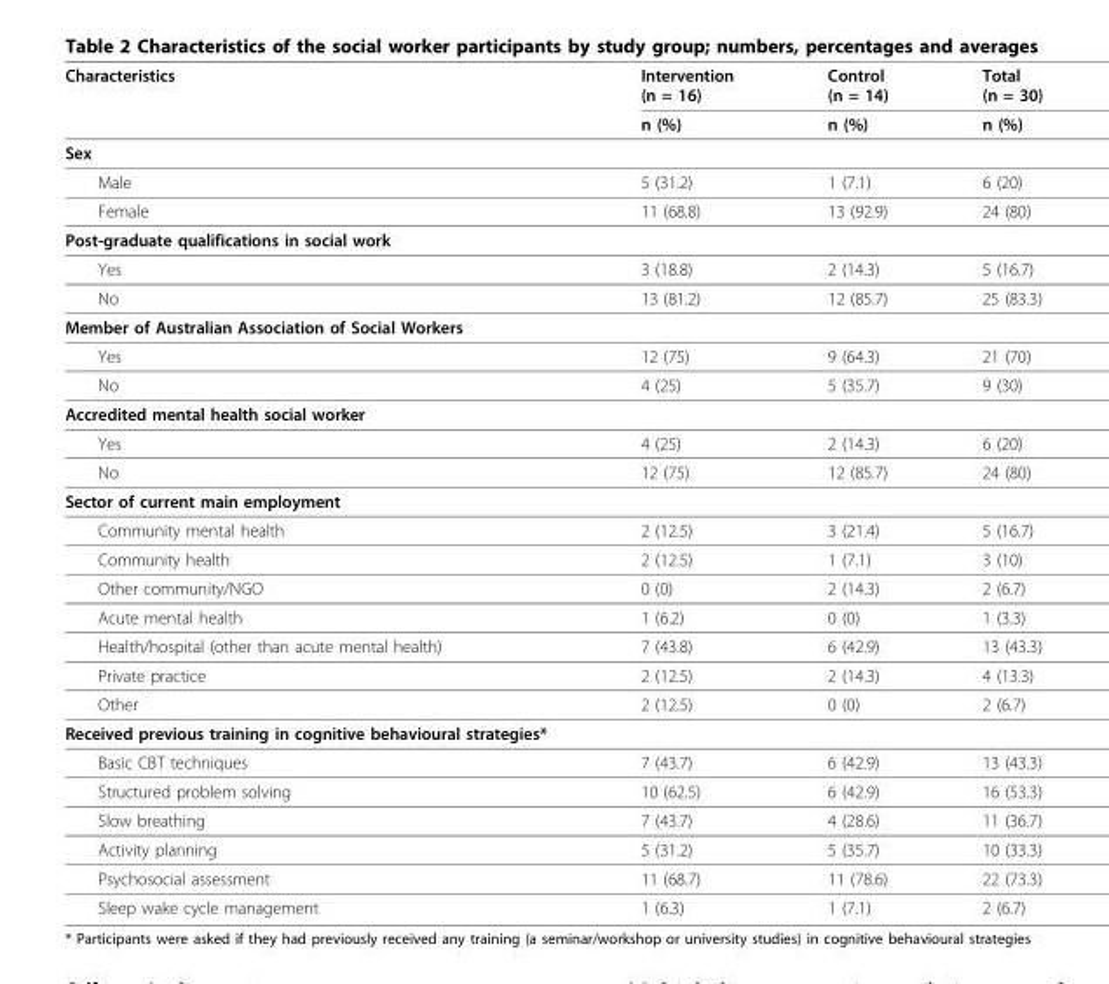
<table><thead><tr><td rowspan="2">Characteristics</td><td rowspan="2">Intervention (n = 16) n (%)</td><td rowspan="2">Control (n = 14) n (%)</td><td rowspan="2">Total (n = 30) n (%)</td></tr><tr></tr></thead><tbody><tr><td colspan="4">Sex</td></tr><tr><td>Male</td><td>5 (31.2)</td><td>1 (7.1)</td><td>6 (20)</td></tr><tr><td>Female</td><td>11 (68.8)</td><td>13 (92.9)</td><td>24 (80)</td></tr><tr><td colspan="4">Post-graduate qualifications in social work</td></tr><tr><td>Yes</td><td>3 (18.8)</td><td>2 (14.3)</td><td>5 (16.7)</td></tr><tr><td>No</td><td>13 (81.2)</td><td>12 (85.7)</td><td>25 (83.3)</td></tr><tr><td colspan="4">Member of Australian Association of Social Workers</td></tr><tr><td>Yes</td><td>12 (75)</td><td>9 (64.3)</td><td>21 (70)</td></tr><tr><td>No</td><td>4 (25)</td><td>5 (35.7)</td><td>9 (30)</td></tr><tr><td colspan="4">Accredited mental health social worker</td></tr><tr><td>Yes</td><td>4 (25)</td><td>2 (14.3)</td><td>6 (20)</td></tr><tr><td>No</td><td>12 (75)</td><td>12 (85.7)</td><td>24 (80)</td></tr><tr><td colspan="4">Sector of current main employment</td></tr><tr><td>Community mental health</td><td>2 (12.5)</td><td>3 (21.4)</td><td>5 (16.7)</td></tr><tr><td>Community health</td><td>2 (12.5)</td><td>1 (7.1)</td><td>3 (10)</td></tr><tr><td>Other community/NGO</td><td>0 (0)</td><td>2 (14.3)</td><td>2 (6.7)</td></tr><tr><td>Acute mental health</td><td>1 (6.2)</td><td>0 (0)</td><td>1 (3.3)</td></tr><tr><td>Health/hospital (other than acute mental health)</td><td>7 (43.8)</td><td>6 (42.9)</td><td>13 (43.3)</td></tr><tr><td>Private practice</td><td>2 (12.5)</td><td>2 (14.3)</td><td>4 (13.3)</td></tr><tr><td>Other</td><td>2 (12.5)</td><td>0 (0)</td><td>2 (6.7)</td></tr><tr><td colspan="4">Received previous training in cognitive behavioural strategies*</td></tr><tr><td>Basic CBT techniques</td><td>7 (43.7)</td><td>6 (42.9)</td><td>13 (43.3)</td></tr><tr><td>Structured problem solving</td><td>10 (62.5)</td><td>6 (42.9)</td><td>16 (53.3)</td></tr><tr><td>Slow breathing</td><td>7 (43.7)</td><td>4 (28.6)</td><td>11 (36.7)</td></tr><tr><td>Activity planning</td><td>5 (31.2)</td><td>5 (35.7)</td><td>10 (33.3)</td></tr><tr><td>Psychosocial assessment</td><td>11 (68.7)</td><td>11 (78.6)</td><td>22 (73.3)</td></tr><tr><td>Sleep wake cycle management</td><td>1 (6.3)</td><td>1 (7.1)</td><td>2 (6.7)</td></tr></tbody></table>